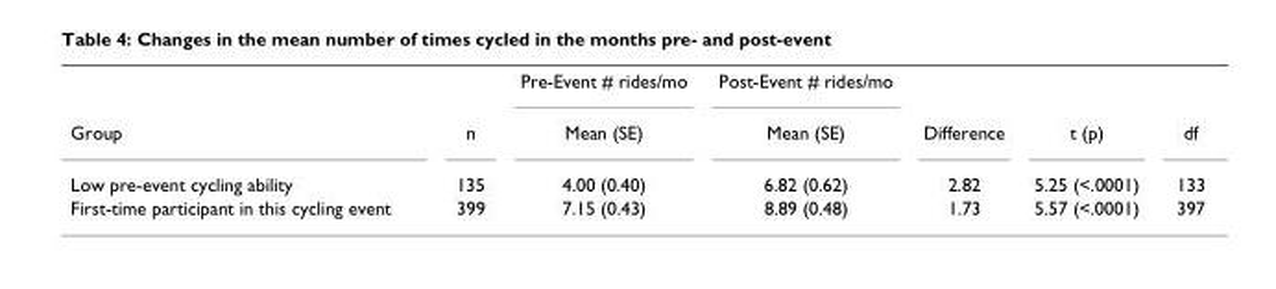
<table><thead><tr><td></td><td></td><td>Pre-Event # rides/mo</td><td>Post-Event # rides/mo</td><td></td><td></td><td></td></tr></thead><tbody><tr><td>Group</td><td>n</td><td>Mean (SE)</td><td>Mean (SE)</td><td>Difference</td><td>t (p)</td><td>df</td></tr><tr><td>Low pre-event cycling ability</td><td>135</td><td>4.00 (0.40)</td><td>6.82 (0.62)</td><td>2.82</td><td>5.25 (&lt;.0001)</td><td>133</td></tr><tr><td>First-time participant in this cycling event</td><td>399</td><td>7.15 (0.43)</td><td>8.89 (0.48)</td><td>1.73</td><td>5.57 (&lt;.0001)</td><td>397</td></tr></tbody></table>